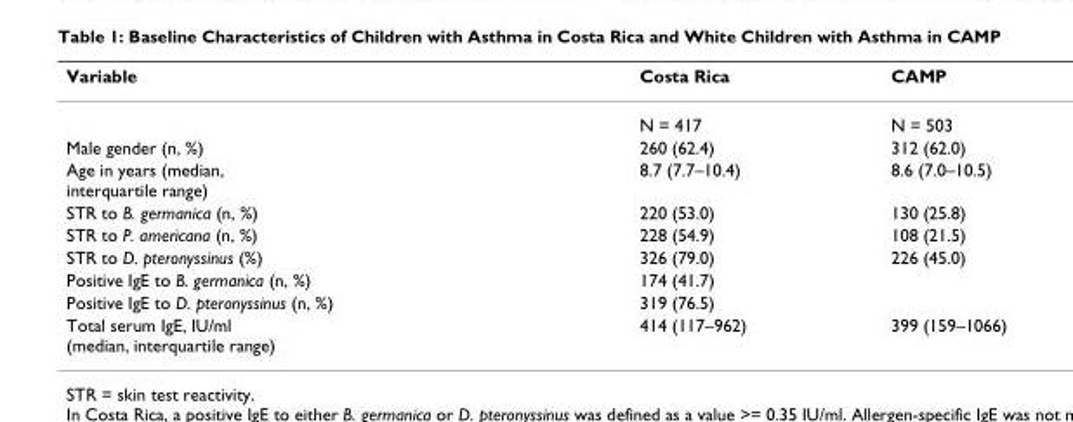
<table><thead><tr><td>Variable</td><td>Costa Rica</td><td>CAMP</td></tr></thead><tbody><tr><td></td><td>N = 417</td><td>N = 503</td></tr><tr><td>Male gender (n, %)</td><td>260 (62.4)</td><td>312 (62.0)</td></tr><tr><td>Age in years (median, interquartile range)</td><td>8.7 (7.7–10.4)</td><td>8.6 (7.0–10.5)</td></tr><tr><td>STR to B. germanica (n, %)</td><td>220 (53.0)</td><td>130 (25.8)</td></tr><tr><td>STR to P. americana (n, %)</td><td>228 (54.9)</td><td>108 (21.5)</td></tr><tr><td>STR to D. pteronyssinus (%)</td><td>326 (79.0)</td><td>226 (45.0)</td></tr><tr><td>Positive IgE to B. germanica (n, %)</td><td>174 (41.7)</td><td></td></tr><tr><td>Positive IgE to D. pteronyssinus (n, %)</td><td>319 (76.5)</td><td></td></tr><tr><td>Total serum IgE, IU/ml (median, interquartile range)</td><td>414 (117–962)</td><td>399 (159–1066)</td></tr></tbody></table>